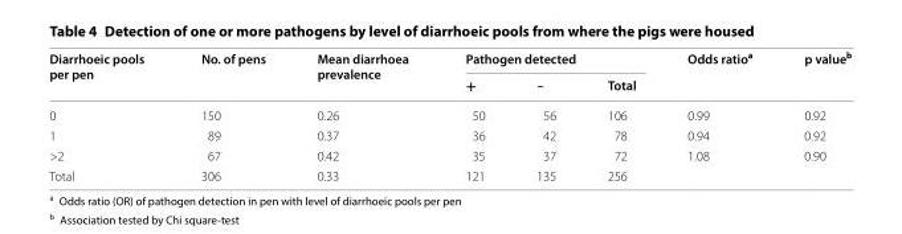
<table><thead><tr><td rowspan="2">Diarrhoeic pools per pen</td><td rowspan="2">No. of pens</td><td rowspan="2">Mean diarrhoea prevalence</td><td colspan="3">Pathogen detected</td><td rowspan="2">Odds ratio<sup>a</sup></td><td rowspan="2">p value<sup>b</sup></td></tr><tr><td>+</td><td>–</td><td>Total</td></tr></thead><tbody><tr><td>0</td><td>150</td><td>0.26</td><td>50</td><td>56</td><td>106</td><td>0.99</td><td>0.92</td></tr><tr><td>1</td><td>89</td><td>0.37</td><td>36</td><td>42</td><td>78</td><td>0.94</td><td>0.92</td></tr><tr><td>&gt;2</td><td>67</td><td>0.42</td><td>35</td><td>37</td><td>72</td><td>1.08</td><td>0.90</td></tr><tr><td>Total</td><td>306</td><td>0.33</td><td>121</td><td>135</td><td>256</td><td></td><td></td></tr></tbody></table>